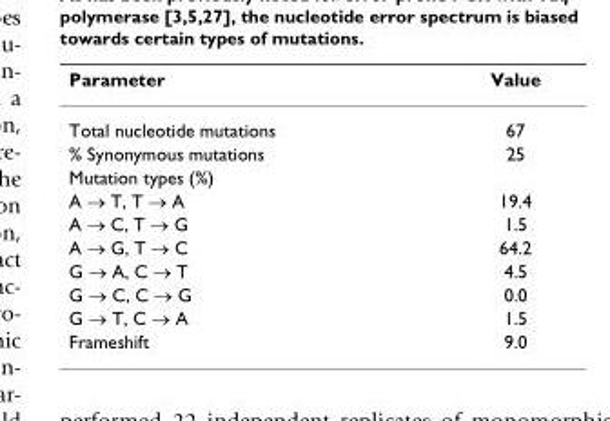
<table><thead><tr><td>Parameter</td><td>Value</td></tr></thead><tbody><tr><td>Total nucleotide mutations</td><td>67</td></tr><tr><td>% Synonymous mutations</td><td>25</td></tr><tr><td colspan="2">Mutation types (%)</td></tr><tr><td>A → T, T → A</td><td>19.4</td></tr><tr><td>A → C, T → G</td><td>1.5</td></tr><tr><td>A → G, T → C</td><td>64.2</td></tr><tr><td>G → A, C → T</td><td>4.5</td></tr><tr><td>G → C, C → G</td><td>0.0</td></tr><tr><td>G → T, C → A</td><td>1.5</td></tr><tr><td>Frameshift</td><td>9.0</td></tr></tbody></table>